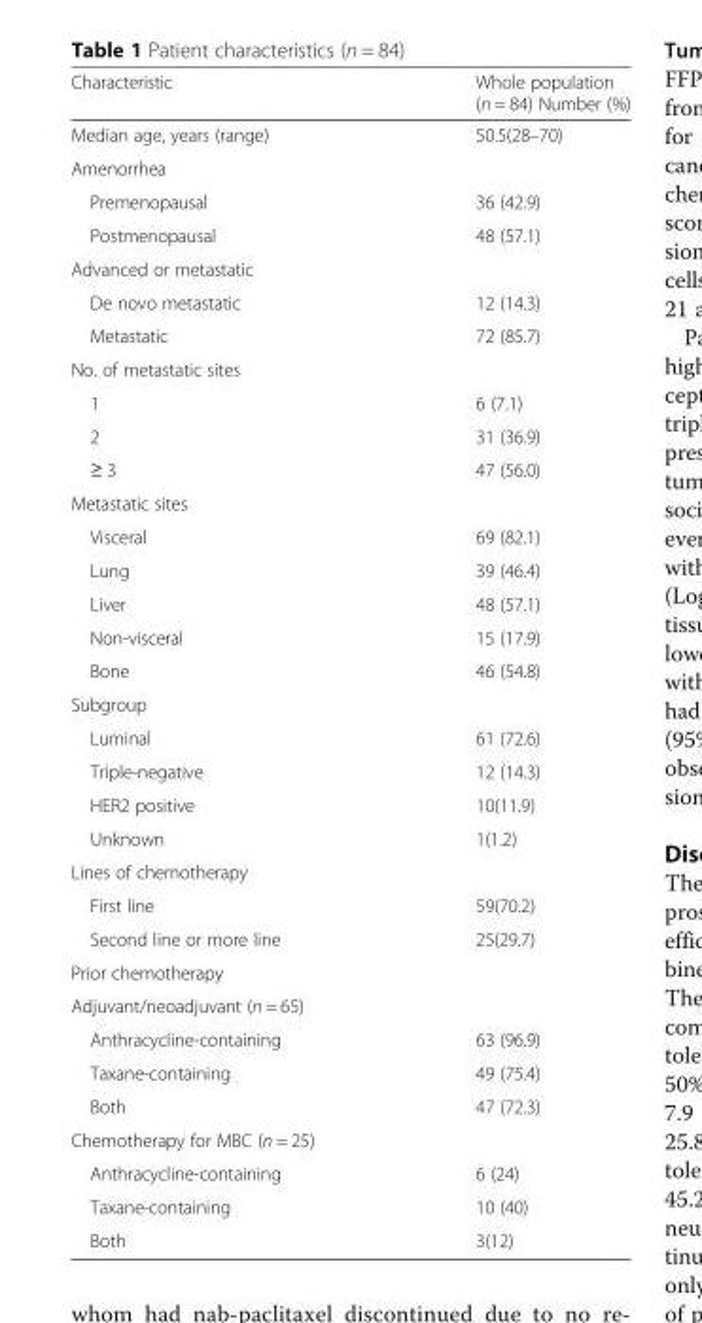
<table><thead><tr><td>Characteristic</td><td>Whole population (n = 84) Number (%)</td></tr></thead><tbody><tr><td>Median age, years (range)</td><td>50.5(28–70)</td></tr><tr><td colspan="2">Amenorrhea</td></tr><tr><td>Premenopausal</td><td>36 (42.9)</td></tr><tr><td>Postmenopausal</td><td>48 (57.1)</td></tr><tr><td colspan="2">Advanced or metastatic</td></tr><tr><td>De novo metastatic</td><td>12 (14.3)</td></tr><tr><td>Metastatic</td><td>72 (85.7)</td></tr><tr><td colspan="2">No. of metastatic sites</td></tr><tr><td>1</td><td>6 (7.1)</td></tr><tr><td>2</td><td>31 (36.9)</td></tr><tr><td>≥ 3</td><td>47 (56.0)</td></tr><tr><td colspan="2">Metastatic sites</td></tr><tr><td>Visceral</td><td>69 (82.1)</td></tr><tr><td>Lung</td><td>39 (46.4)</td></tr><tr><td>Liver</td><td>48 (57.1)</td></tr><tr><td>Non-visceral</td><td>15 (17.9)</td></tr><tr><td>Bone</td><td>46 (54.8)</td></tr><tr><td colspan="2">Subgroup</td></tr><tr><td>Luminal</td><td>61 (72.6)</td></tr><tr><td>Triple-negative</td><td>12 (14.3)</td></tr><tr><td>HER2 positive</td><td>10(11.9)</td></tr><tr><td>Unknown</td><td>1(1.2)</td></tr><tr><td colspan="2">Lines of chemotherapy</td></tr><tr><td>First line</td><td>59(70.2)</td></tr><tr><td>Second line or more line</td><td>25(29.7)</td></tr><tr><td colspan="2">Prior chemotherapy</td></tr><tr><td colspan="2">Adjuvant/neoadjuvant (n = 65)</td></tr><tr><td>Anthracycline-containing</td><td>63 (96.9)</td></tr><tr><td>Taxane-containing</td><td>49 (75.4)</td></tr><tr><td>Both</td><td>47 (72.3)</td></tr><tr><td colspan="2">Chemotherapy for MBC (n = 25)</td></tr><tr><td>Anthracycline-containing</td><td>6 (24)</td></tr><tr><td>Taxane-containing</td><td>10 (40)</td></tr><tr><td>Both</td><td>3(12)</td></tr></tbody></table>